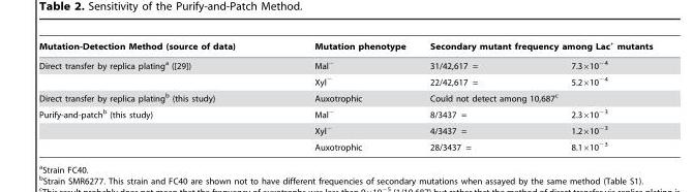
<table><thead><tr><td rowspan="2">Mutation-Detection Method (source of data) Direct transfer by replica plating<sup>a</sup> ([29])</td><td rowspan="2">Mutation phenotype Mal<sup>−</sup></td><td colspan="2">Secondary mutant frequency among Lac<sup>+</sup> mutants</td></tr><tr><td>31/42,617 =</td><td>7.3×10<sup>−4</sup></td></tr></thead><tbody><tr><td></td><td>Xyl<sup>−</sup></td><td>22/42,617 =</td><td>5.2×10<sup>−4</sup></td></tr><tr><td>Direct transfer by replica plating<sup>b</sup> (this study)</td><td>Auxotrophic</td><td colspan="2">Could not detect among 10,687<sup>c</sup></td></tr><tr><td rowspan="3">Purify-and-patch<sup>b</sup> (this study)</td><td>Mal<sup>−</sup></td><td>8/3437 =</td><td>2.3×10<sup>−3</sup></td></tr><tr><td>Xyl<sup>−</sup></td><td>4/3437 =</td><td>1.2×10<sup>−3</sup></td></tr><tr><td>Auxotrophic</td><td>28/3437 =</td><td>8.1×10<sup>−3</sup></td></tr></tbody></table>